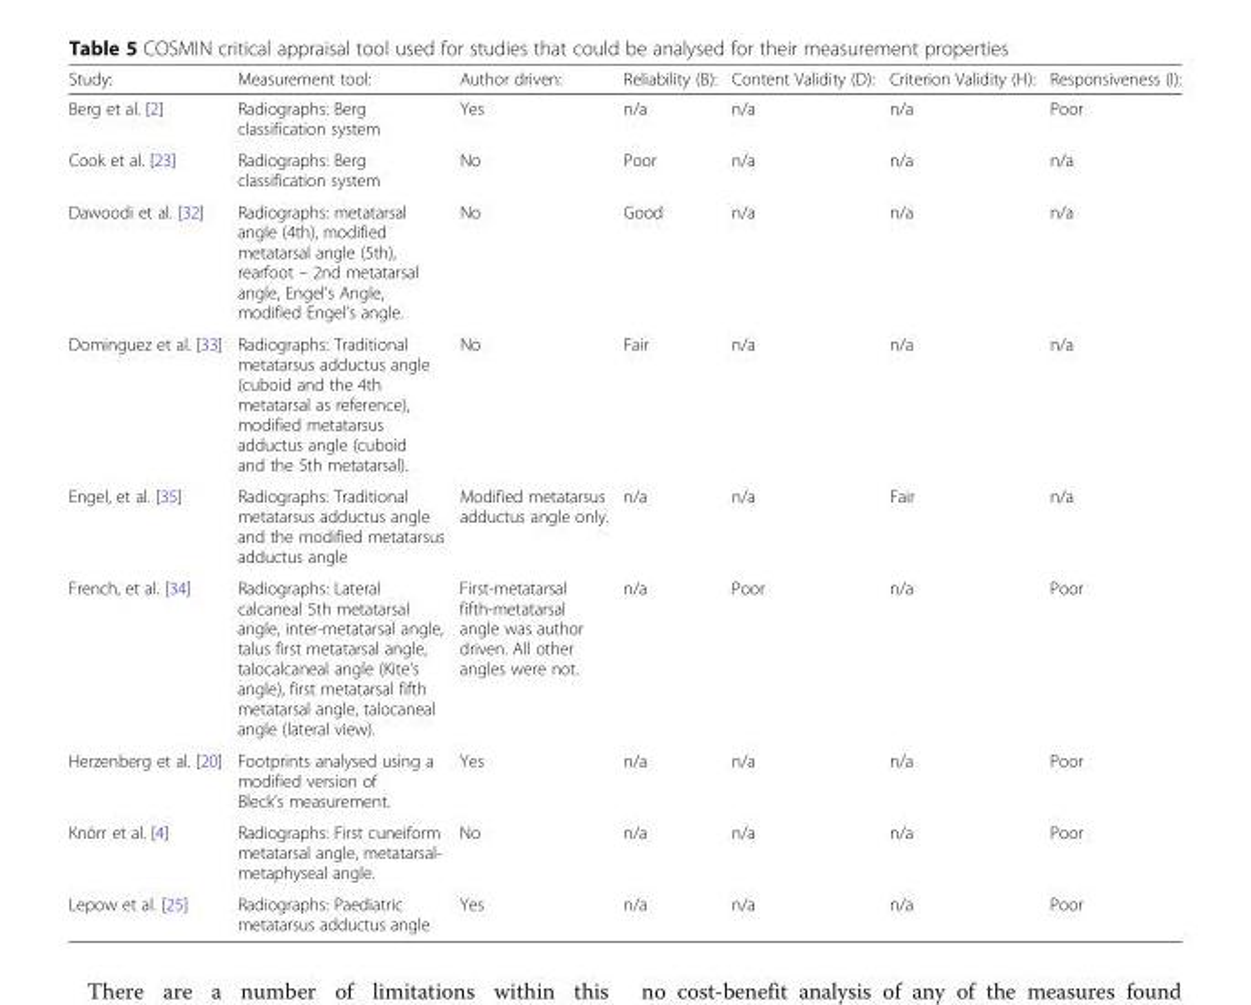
<table><thead><tr><td>Study:</td><td>Measurement tool:</td><td>Author driven:</td><td>Reliability (B):</td><td>Content Validity (D):</td><td>Criterion Validity (H):</td><td>Responsiveness (I):</td></tr></thead><tbody><tr><td>Berg et al. [2]</td><td>Radiographs: Berg classification system</td><td>Yes</td><td>n/a</td><td>n/a</td><td>n/a</td><td>Poor</td></tr><tr><td>Cook et al. [23]</td><td>Radiographs: Berg classification system</td><td>No</td><td>Poor</td><td>n/a</td><td>n/a</td><td>n/a</td></tr><tr><td>Dawoodi et al. [32]</td><td>Radiographs: metatarsal angle (4th), modified metatarsal angle (5th), rearfoot – 2nd metatarsal angle, Engel’s Angle, modified Engel’s angle.</td><td>No</td><td>Good</td><td>n/a</td><td>n/a</td><td>n/a</td></tr><tr><td>Dominguez et al. [33]</td><td>Radiographs: Traditional metatarsus adductus angle (cuboid and the 4th metatarsal as reference), modified metatarsus adductus angle (cuboid and the 5th metatarsal).</td><td>No</td><td>Fair</td><td>n/a</td><td>n/a</td><td>n/a</td></tr><tr><td>Engel, et al. [35]</td><td>Radiographs: Traditional metatarsus adductus angle and the modified metatarsus adductus angle</td><td>Modified metatarsus adductus angle only.</td><td>n/a</td><td>n/a</td><td>Fair</td><td>n/a</td></tr><tr><td>French, et al. [34]</td><td>Radiographs: Lateral calcaneal 5th metatarsal angle, inter-metatarsal angle, talus first metatarsal angle, talocalcaneal angle (Kite’s angle), first metatarsal fifth metatarsal angle, talocaneal angle (lateral view).</td><td>First-metatarsal fifth-metatarsal angle was author driven. All other angles were not.</td><td>n/a</td><td>Poor</td><td>n/a</td><td>Poor</td></tr><tr><td>Herzenberg et al. [20]</td><td>Footprints analysed using a modified version of Bleck’s measurement.</td><td>Yes</td><td>n/a</td><td>n/a</td><td>n/a</td><td>Poor</td></tr><tr><td>Knörr et al. [4]</td><td>Radiographs: First cuneiform metatarsal angle, metatarsal- metaphyseal angle.</td><td>No</td><td>n/a</td><td>n/a</td><td>n/a</td><td>Poor</td></tr><tr><td>Lepow et al. [25]</td><td>Radiographs: Paediatric metatarsus adductus angle</td><td>Yes</td><td>n/a</td><td>n/a</td><td>n/a</td><td>Poor</td></tr></tbody></table>